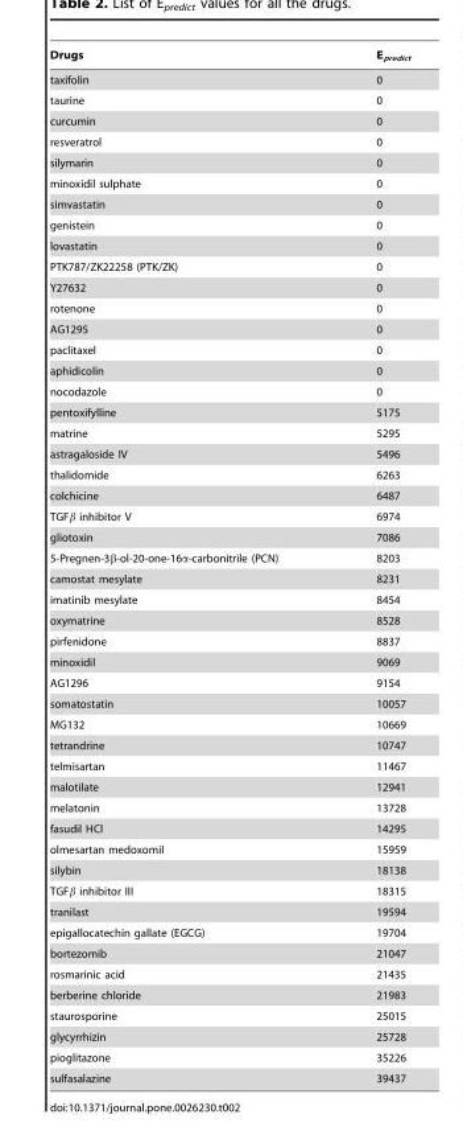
<table><thead><tr><td>Drugs</td><td>E<sub>predict</sub></td></tr></thead><tbody><tr><td>taxifolin</td><td>0</td></tr><tr><td>taurine</td><td>0</td></tr><tr><td>curcumin</td><td>0</td></tr><tr><td>resveratrol</td><td>0</td></tr><tr><td>silymarin</td><td>0</td></tr><tr><td>minoxidil sulphate</td><td>0</td></tr><tr><td>simvastatin</td><td>0</td></tr><tr><td>genistein</td><td>0</td></tr><tr><td>lovastatin</td><td>0</td></tr><tr><td>PTK787/ZK22258 (PTK/ZK)</td><td>0</td></tr><tr><td>Y27632</td><td>0</td></tr><tr><td>rotenone</td><td>0</td></tr><tr><td>AG1295</td><td>0</td></tr><tr><td>paclitaxel</td><td>0</td></tr><tr><td>aphidicolin</td><td>0</td></tr><tr><td>nocodazole</td><td>0</td></tr><tr><td>pentoxifylline</td><td>5175</td></tr><tr><td>matrine</td><td>5295</td></tr><tr><td>astragaloside IV</td><td>5496</td></tr><tr><td>thalidomide</td><td>6263</td></tr><tr><td>colchicine</td><td>6487</td></tr><tr><td>TGFβ inhibitor V</td><td>6974</td></tr><tr><td>gliotoxin</td><td>7086</td></tr><tr><td>5-Pregnen-3β-ol-20-one-16α-carbonitrile (PCN)</td><td>8203</td></tr><tr><td>camostat mesylate</td><td>8231</td></tr><tr><td>imatinib mesylate</td><td>8454</td></tr><tr><td>oxymatrine</td><td>8528</td></tr><tr><td>pirfenidone</td><td>8837</td></tr><tr><td>minoxidil</td><td>9069</td></tr><tr><td>AG1296</td><td>9154</td></tr><tr><td>somatostatin</td><td>10057</td></tr><tr><td>MG132</td><td>10669</td></tr><tr><td>tetrandrine</td><td>10747</td></tr><tr><td>telmisartan</td><td>11467</td></tr><tr><td>malotilate</td><td>12941</td></tr><tr><td>melatonin</td><td>13728</td></tr><tr><td>fasudil HCl</td><td>14295</td></tr><tr><td>olmesartan medoxomil</td><td>15959</td></tr><tr><td>silybin</td><td>18138</td></tr><tr><td>TGFβ inhibitor III</td><td>18315</td></tr><tr><td>tranilast</td><td>19594</td></tr><tr><td>epigallocatechin gallate (EGCG)</td><td>19704</td></tr><tr><td>bortezomib</td><td>21047</td></tr><tr><td>rosmarinic acid</td><td>21435</td></tr><tr><td>berberine chloride</td><td>21983</td></tr><tr><td>staurosporine</td><td>25015</td></tr><tr><td>glycyrrhizin</td><td>25728</td></tr><tr><td>pioglitazone</td><td>35226</td></tr><tr><td>sulfasalazine</td><td>39437</td></tr></tbody></table>